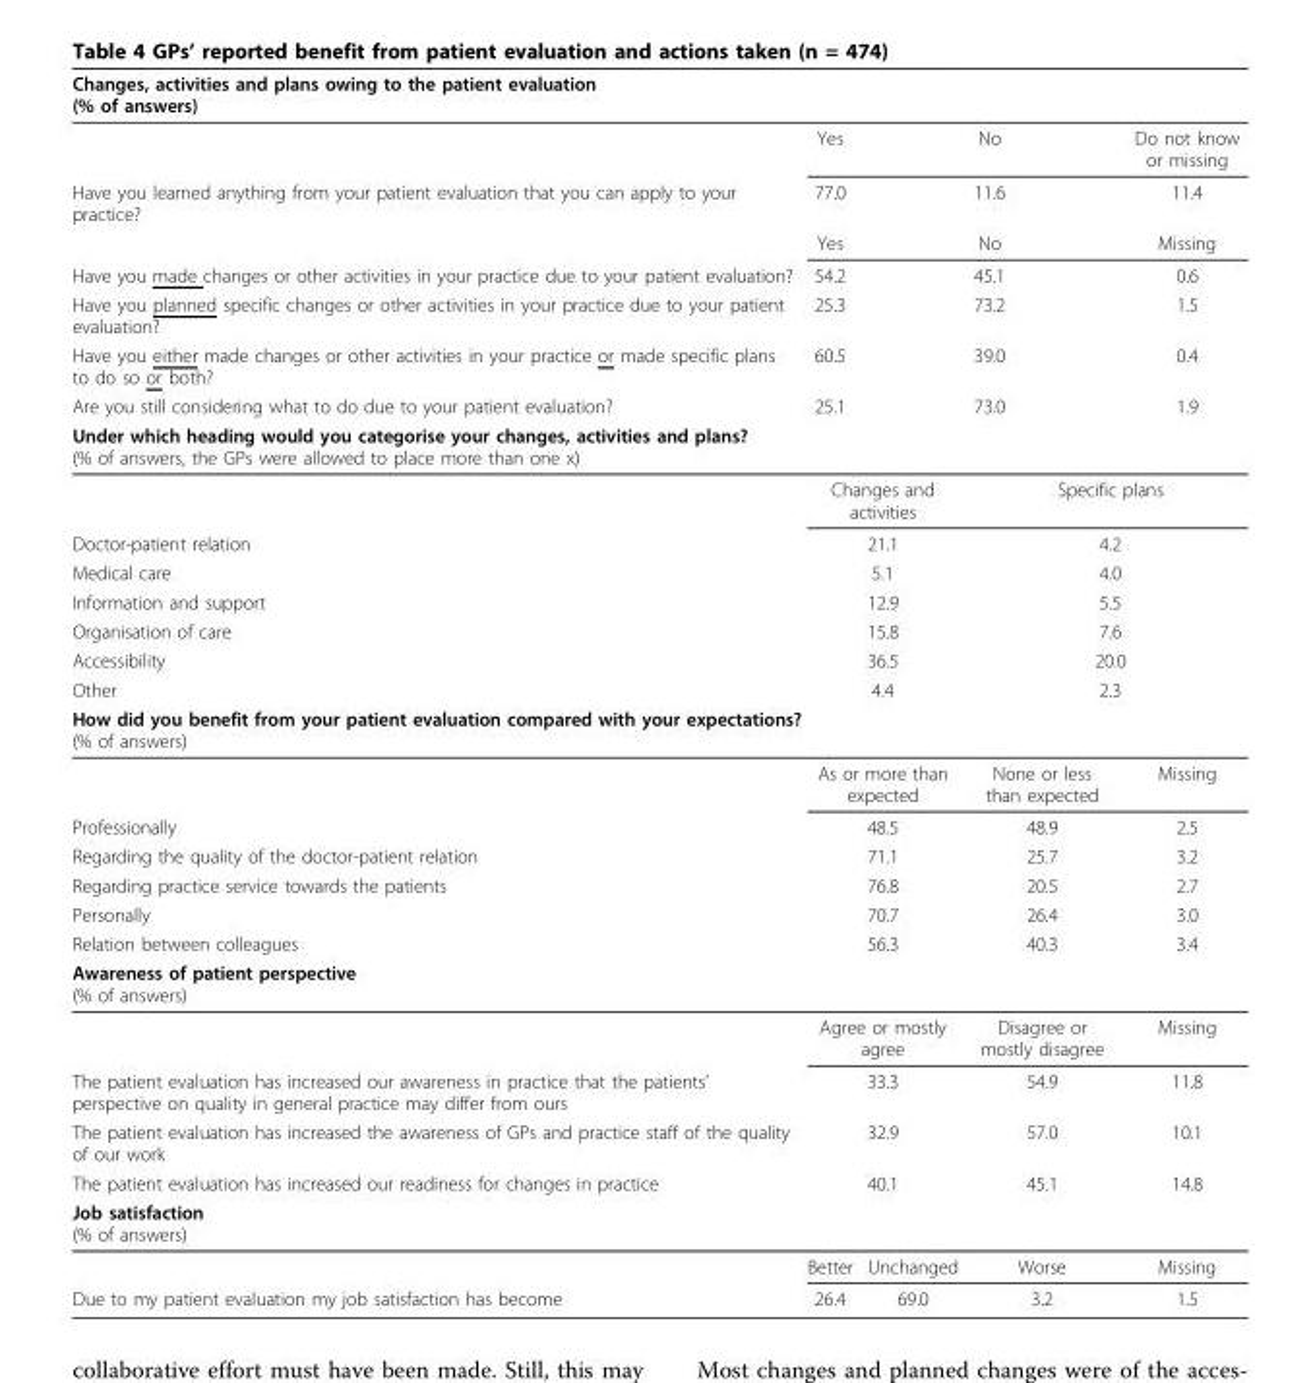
<table><thead><tr><td colspan="5">Changes, activities and plans owing to the patient evaluation (% of answers)</td></tr></thead><tbody><tr><td></td><td>Yes</td><td colspan="2">No</td><td>Do not know or missing</td></tr><tr><td rowspan="2">Have you learned anything from your patient evaluation that you can apply to your practice?</td><td>77.0</td><td colspan="2">11.6</td><td>11.4</td></tr><tr><td>Yes</td><td colspan="2">No</td><td>Missing</td></tr><tr><td>Have you made changes or other activities in your practice due to your patient evaluation?</td><td>54.2</td><td colspan="2">45.1</td><td>0.6</td></tr><tr><td>Have you planned specific changes or other activities in your practice due to your patient evaluation?</td><td>25.3</td><td colspan="2">73.2</td><td>1.5</td></tr><tr><td>Have you either made changes or other activities in your practice or made specific plans to do so or both?</td><td>60.5</td><td colspan="2">39.0</td><td>0.4</td></tr><tr><td>Are you still considering what to do due to your patient evaluation?</td><td>25.1</td><td colspan="2">73.0</td><td>1.9</td></tr><tr><td colspan="5">Under which heading would you categorise your changes, activities and plans? (% of answers, the GPs were allowed to place more than one x)</td></tr><tr><td></td><td colspan="2">Changes and activities</td><td colspan="2">Specific plans</td></tr><tr><td>Doctor-patient relation</td><td colspan="2">21.1</td><td colspan="2">4.2</td></tr><tr><td>Medical care</td><td colspan="2">5.1</td><td colspan="2">4.0</td></tr><tr><td>Information and support</td><td colspan="2">12.9</td><td colspan="2">5.5</td></tr><tr><td>Organisation of care</td><td colspan="2">15.8</td><td colspan="2">7.6</td></tr><tr><td>Accessibility</td><td colspan="2">36.5</td><td colspan="2">20.0</td></tr><tr><td>Other</td><td colspan="2">4.4</td><td colspan="2">2.3</td></tr><tr><td colspan="5">How did you benefit from your patient evaluation compared with your expectations? (% of answers)</td></tr><tr><td></td><td colspan="2">As or more than expected</td><td>None or less than expected</td><td>Missing</td></tr><tr><td>Professionally</td><td colspan="2">48.5</td><td>48.9</td><td>2.5</td></tr><tr><td>Regarding the quality of the doctor-patient relation</td><td colspan="2">71.1</td><td>25.7</td><td>3.2</td></tr><tr><td>Regarding practice service towards the patients</td><td colspan="2">76.8</td><td>20.5</td><td>2.7</td></tr><tr><td>Personally</td><td colspan="2">70.7</td><td>26.4</td><td>3.0</td></tr><tr><td>Relation between colleagues</td><td colspan="2">56.3</td><td>40.3</td><td>3.4</td></tr><tr><td colspan="5">Awareness of patient perspective (% of answers)</td></tr><tr><td></td><td colspan="2">Agree or mostly agree</td><td>Disagree or mostly disagree</td><td>Missing</td></tr><tr><td>The patient evaluation has increased our awareness in practice that the patients’ perspective on quality in general practice may differ from ours</td><td colspan="2">33.3</td><td>54.9</td><td>11.8</td></tr><tr><td>The patient evaluation has increased the awareness of GPs and practice staff of the quality of our work</td><td colspan="2">32.9</td><td>57.0</td><td>10.1</td></tr><tr><td>The patient evaluation has increased our readiness for changes in practice</td><td colspan="2">40.1</td><td>45.1</td><td>14.8</td></tr><tr><td colspan="5">Job satisfaction (% of answers)</td></tr><tr><td></td><td>Better</td><td>Unchanged</td><td>Worse</td><td>Missing</td></tr><tr><td>Due to my patient evaluation my job satisfaction has become</td><td>26.4</td><td>69.0</td><td>3.2</td><td>1.5</td></tr></tbody></table>